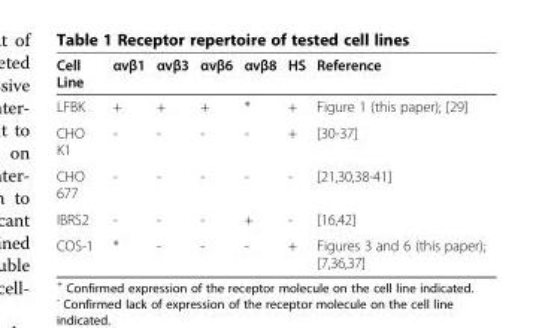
<table><thead><tr><td>Cell Line</td><td>αvβ1</td><td>αvβ3</td><td>αvβ6</td><td>αvβ8</td><td>HS</td><td>Reference</td></tr></thead><tbody><tr><td>LFBK</td><td>+</td><td>+</td><td>+</td><td>*</td><td>+</td><td>Figure 1 (this paper); [29]</td></tr><tr><td>CHO K1</td><td>-</td><td>-</td><td>-</td><td>-</td><td>+</td><td>[30-37]</td></tr><tr><td>CHO 677</td><td>-</td><td>-</td><td>-</td><td>-</td><td>-</td><td>[21,30,38-41]</td></tr><tr><td>IBRS2</td><td>-</td><td>-</td><td>-</td><td>+</td><td>-</td><td>[16,42]</td></tr><tr><td>COS-1</td><td>*</td><td>-</td><td>-</td><td>-</td><td>+</td><td>Figures 3 and 6 (this paper); [7,36,37]</td></tr></tbody></table>